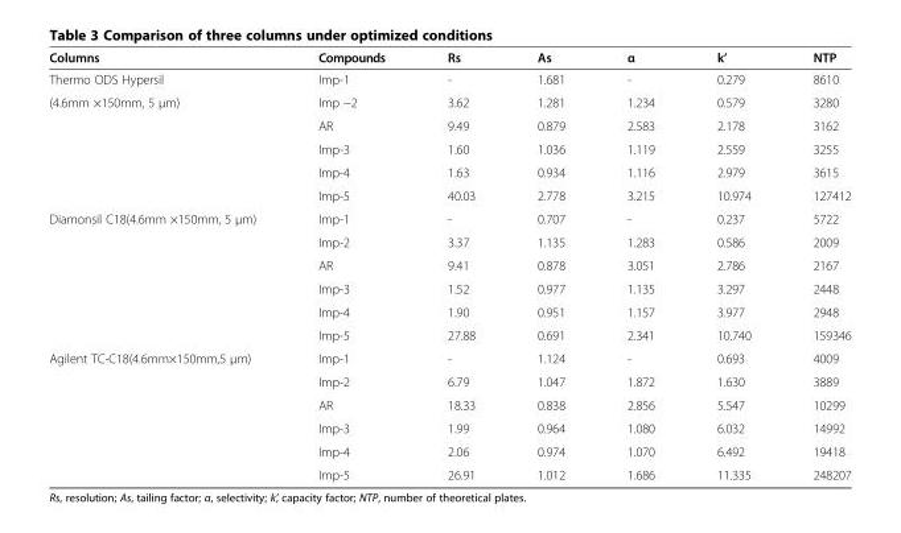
<table><thead><tr><td>Columns</td><td>Compounds</td><td>Rs</td><td>As</td><td>α</td><td>k’</td><td>NTP</td></tr></thead><tbody><tr><td>Thermo ODS Hypersil</td><td>Imp-1</td><td>-</td><td>1.681</td><td>-</td><td>0.279</td><td>8610</td></tr><tr><td rowspan="5">(4.6mm ×150mm, 5 μm)</td><td>Imp −2</td><td>3.62</td><td>1.281</td><td>1.234</td><td>0.579</td><td>3280</td></tr><tr><td>AR</td><td>9.49</td><td>0.879</td><td>2.583</td><td>2.178</td><td>3162</td></tr><tr><td>Imp-3</td><td>1.60</td><td>1.036</td><td>1.119</td><td>2.559</td><td>3255</td></tr><tr><td>Imp-4</td><td>1.63</td><td>0.934</td><td>1.116</td><td>2.979</td><td>3615</td></tr><tr><td>Imp-5</td><td>40.03</td><td>2.778</td><td>3.215</td><td>10.974</td><td>127412</td></tr><tr><td rowspan="6">Diamonsil C18(4.6mm ×150mm, 5 μm)</td><td>Imp-1</td><td>-</td><td>0.707</td><td>-</td><td>0.237</td><td>5722</td></tr><tr><td>Imp-2</td><td>3.37</td><td>1.135</td><td>1.283</td><td>0.586</td><td>2009</td></tr><tr><td>AR</td><td>9.41</td><td>0.878</td><td>3.051</td><td>2.786</td><td>2167</td></tr><tr><td>Imp-3</td><td>1.52</td><td>0.977</td><td>1.135</td><td>3.297</td><td>2448</td></tr><tr><td>Imp-4</td><td>1.90</td><td>0.951</td><td>1.157</td><td>3.977</td><td>2948</td></tr><tr><td>Imp-5</td><td>27.88</td><td>0.691</td><td>2.341</td><td>10.740</td><td>159346</td></tr><tr><td rowspan="6">Agilent TC-C18(4.6mm×150mm,5 μm)</td><td>Imp-1</td><td>-</td><td>1.124</td><td>-</td><td>0.693</td><td>4009</td></tr><tr><td>Imp-2</td><td>6.79</td><td>1.047</td><td>1.872</td><td>1.630</td><td>3889</td></tr><tr><td>AR</td><td>18.33</td><td>0.838</td><td>2.856</td><td>5.547</td><td>10299</td></tr><tr><td>Imp-3</td><td>1.99</td><td>0.964</td><td>1.080</td><td>6.032</td><td>14992</td></tr><tr><td>Imp-4</td><td>2.06</td><td>0.974</td><td>1.070</td><td>6.492</td><td>19418</td></tr><tr><td>Imp-5</td><td>26.91</td><td>1.012</td><td>1.686</td><td>11.335</td><td>248207</td></tr></tbody></table>